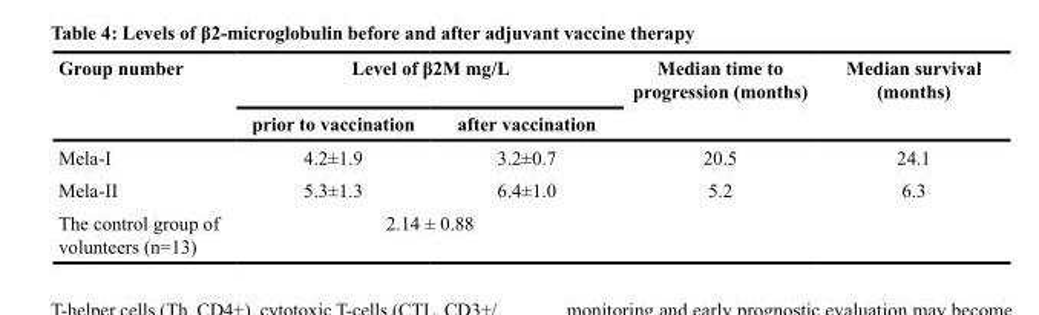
<table><thead><tr><td rowspan="2">Group number</td><td colspan="2">Level of β2M mg/L</td><td rowspan="2">Median time to progression (months)</td><td rowspan="2">Median survival (months)</td></tr><tr><td>prior to vaccination</td><td>after vaccination</td></tr></thead><tbody><tr><td>Mela-I</td><td>4.2±1.9</td><td>3.2±0.7</td><td>20.5</td><td>24.1</td></tr><tr><td>Mela-II</td><td>5.3±1.3</td><td>6.4±1.0</td><td>5.2</td><td>6.3</td></tr><tr><td>The control group of volunteers (n=13)</td><td colspan="2">2.14 ± 0.88</td><td></td><td></td></tr></tbody></table>